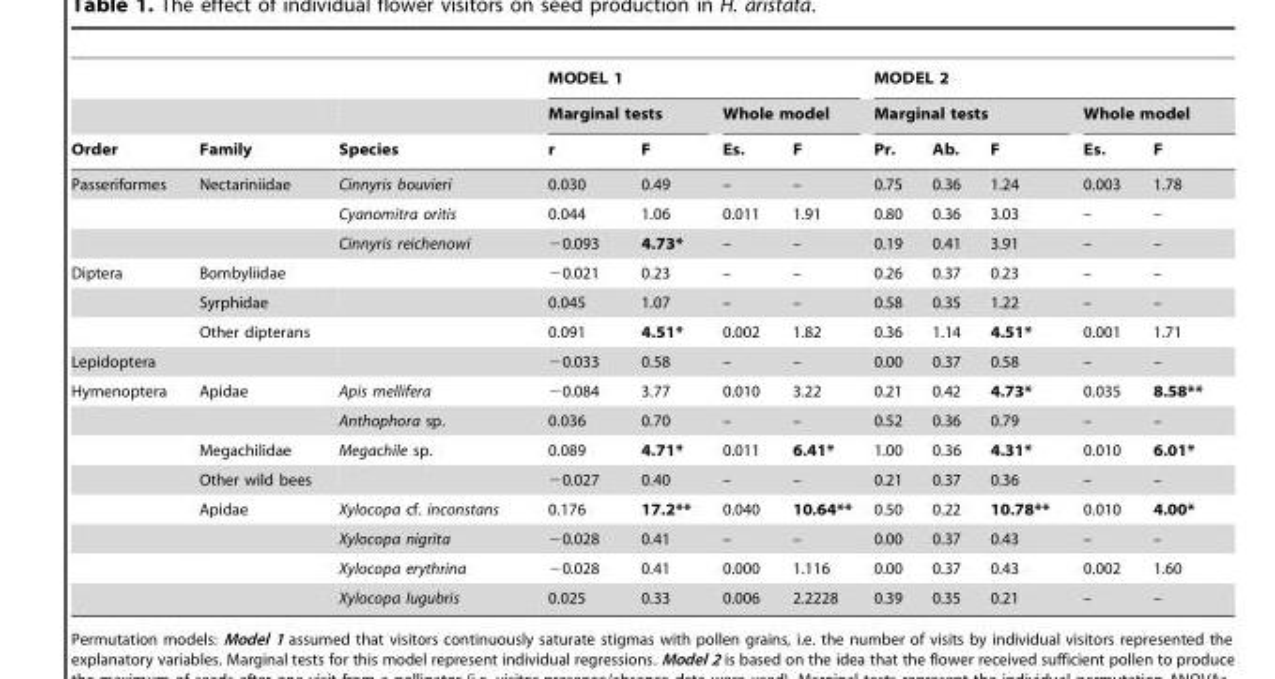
<table><thead><tr><td rowspan="3">Order</td><td rowspan="3">Family</td><td rowspan="3">Species</td><td colspan="4">MODEL 1</td><td colspan="5">MODEL 2</td></tr><tr><td colspan="2">Marginal tests</td><td colspan="2">Whole model</td><td colspan="3">Marginal tests</td><td colspan="2">Whole model</td></tr><tr><td>r</td><td>F</td><td>Es.</td><td>F</td><td>Pr.</td><td>Ab.</td><td>F</td><td>Es.</td><td>F</td></tr></thead><tbody><tr><td rowspan="3">Passeriformes</td><td>Nectariniidae</td><td>Cinnyris bouvieri</td><td>0.030</td><td>0.49</td><td>–</td><td>–</td><td>0.75</td><td>0.36</td><td>1.24</td><td>0.003</td><td>1.78</td></tr><tr><td></td><td>Cyanomitra oritis</td><td>0.044</td><td>1.06</td><td>0.011</td><td>1.91</td><td>0.80</td><td>0.36</td><td>3.03</td><td>–</td><td>–</td></tr><tr><td></td><td>Cinnyris reichenowi</td><td>−0.093</td><td>4.73*</td><td>–</td><td>–</td><td>0.19</td><td>0.41</td><td>3.91</td><td>–</td><td>–</td></tr><tr><td rowspan="3">Diptera</td><td>Bombyliidae</td><td></td><td>−0.021</td><td>0.23</td><td>–</td><td>–</td><td>0.26</td><td>0.37</td><td>0.23</td><td>–</td><td>–</td></tr><tr><td>Syrphidae</td><td></td><td>0.045</td><td>1.07</td><td>–</td><td>–</td><td>0.58</td><td>0.35</td><td>1.22</td><td>–</td><td>–</td></tr><tr><td>Other dipterans</td><td></td><td>0.091</td><td>4.51*</td><td>0.002</td><td>1.82</td><td>0.36</td><td>1.14</td><td>4.51*</td><td>0.001</td><td>1.71</td></tr><tr><td>Lepidoptera</td><td></td><td></td><td>−0.033</td><td>0.58</td><td>–</td><td>–</td><td>0.00</td><td>0.37</td><td>0.58</td><td>–</td><td>–</td></tr><tr><td rowspan="8">Hymenoptera</td><td>Apidae</td><td>Apis mellifera</td><td>−0.084</td><td>3.77</td><td>0.010</td><td>3.22</td><td>0.21</td><td>0.42</td><td>4.73*</td><td>0.035</td><td>8.58**</td></tr><tr><td></td><td>Anthophora sp.</td><td>0.036</td><td>0.70</td><td>–</td><td>–</td><td>0.52</td><td>0.36</td><td>0.79</td><td>–</td><td>–</td></tr><tr><td>Megachilidae</td><td>Megachile sp.</td><td>0.089</td><td>4.71*</td><td>0.011</td><td>6.41*</td><td>1.00</td><td>0.36</td><td>4.31*</td><td>0.010</td><td>6.01*</td></tr><tr><td>Other wild bees</td><td></td><td>−0.027</td><td>0.40</td><td>–</td><td>–</td><td>0.21</td><td>0.37</td><td>0.36</td><td>–</td><td>–</td></tr><tr><td>Apidae</td><td>Xylocopa cf. inconstans</td><td>0.176</td><td>17.2**</td><td>0.040</td><td>10.64**</td><td>0.50</td><td>0.22</td><td>10.78**</td><td>0.010</td><td>4.00*</td></tr><tr><td></td><td>Xylocopa nigrita</td><td>−0.028</td><td>0.41</td><td>–</td><td>–</td><td>0.00</td><td>0.37</td><td>0.43</td><td>–</td><td>–</td></tr><tr><td></td><td>Xylocopa erythrina</td><td>−0.028</td><td>0.41</td><td>0.000</td><td>1.116</td><td>0.00</td><td>0.37</td><td>0.43</td><td>0.002</td><td>1.60</td></tr><tr><td></td><td>Xylocopa lugubris</td><td>0.025</td><td>0.33</td><td>0.006</td><td>2.2228</td><td>0.39</td><td>0.35</td><td>0.21</td><td>–</td><td>–</td></tr></tbody></table>